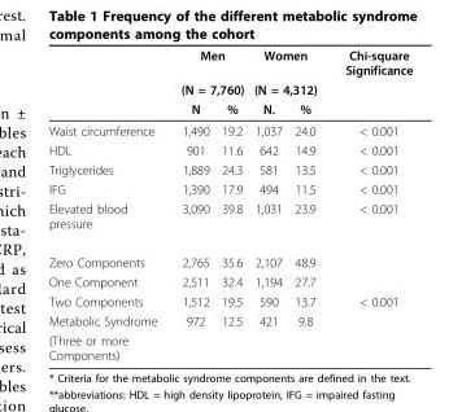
<table><thead><tr><td rowspan="3"></td><td rowspan="2" colspan="2">Men (N = 7,760)</td><td rowspan="2" colspan="2">Women (N = 4,312)</td><td rowspan="3">Chi-square Significance</td></tr><tr></tr><tr><td>N</td><td>%</td><td>N.</td><td>%</td></tr></thead><tbody><tr><td>Waist circumference</td><td>1,490</td><td>19.2</td><td>1,037</td><td>24.0</td><td>&lt; 0.001</td></tr><tr><td>HDL</td><td>901</td><td>11.6</td><td>642</td><td>14.9</td><td>&lt; 0.001</td></tr><tr><td>Triglycerides</td><td>1,889</td><td>24.3</td><td>581</td><td>13.5</td><td>&lt; 0.001</td></tr><tr><td>IFG</td><td>1,390</td><td>17.9</td><td>494</td><td>11.5</td><td>&lt; 0.001</td></tr><tr><td>Elevated blood pressure</td><td>3,090</td><td>39.8</td><td>1,031</td><td>23.9</td><td>&lt; 0.001</td></tr><tr><td>Zero Components</td><td>2,765</td><td>35.6</td><td>2,107</td><td>48.9</td><td></td></tr><tr><td>One Component</td><td>2,511</td><td>32.4</td><td>1,194</td><td>27.7</td><td></td></tr><tr><td>Two Components</td><td>1,512</td><td>19.5</td><td>590</td><td>13.7</td><td>&lt; 0.001</td></tr><tr><td>Metabolic Syndrome</td><td>972</td><td>12.5</td><td>421</td><td>9.8</td><td></td></tr><tr><td>(Three or more Components)</td><td></td><td></td><td></td><td></td><td></td></tr></tbody></table>